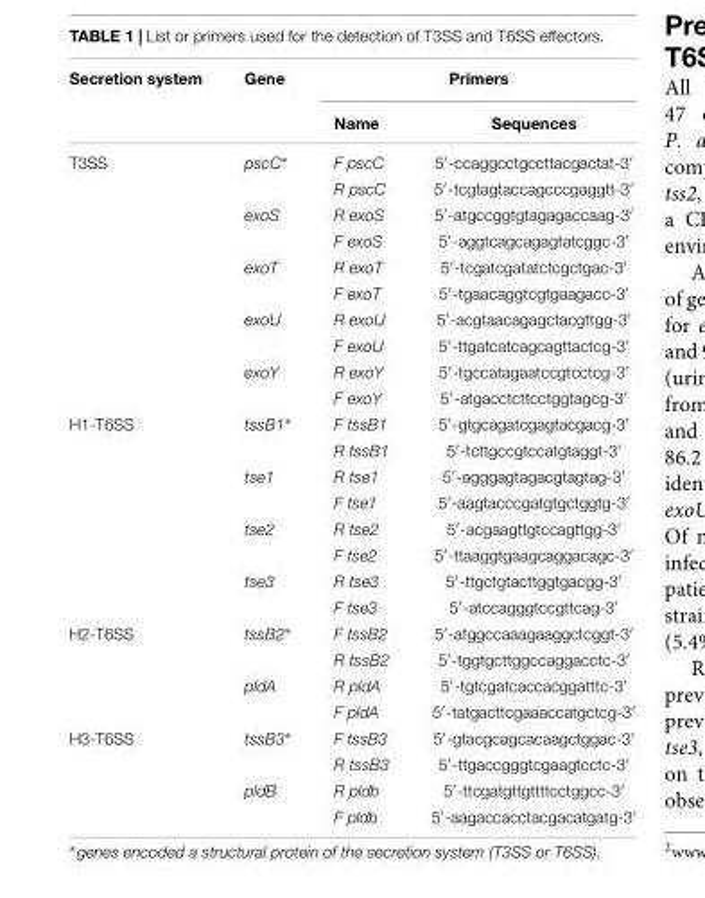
<table><thead><tr><td rowspan="2">Secretion system</td><td rowspan="2">Gene</td><td colspan="2">Primers</td></tr><tr><td>Name</td><td>Sequences</td></tr></thead><tbody><tr><td rowspan="10">T3SS</td><td>pscC∗</td><td>F pscC</td><td>5′-ccaggcctgccttacgactat-3′</td></tr><tr><td></td><td>R pscC</td><td>5′-tcgtagtaccagcccgaggtt-3′</td></tr><tr><td>exoS</td><td>R exoS</td><td>5′-atgccggtgtagagaccaag-3′</td></tr><tr><td></td><td>F exoS</td><td>5′-aggtcagcagagtatcggc-3′</td></tr><tr><td>exoT</td><td>R exoT</td><td>5′-tcgatcgatatctcgctgac-3′</td></tr><tr><td></td><td>F exoT</td><td>5′-tgaacaggtcgtgaagacc-3′</td></tr><tr><td>exoU</td><td>R exoU</td><td>5′-acgtaacagagctacgttgg-3′</td></tr><tr><td></td><td>F exoU</td><td>5′-ttgatcatcagcagttactcg-3′</td></tr><tr><td>exoY</td><td>R exoY</td><td>5′-tgccatagaatccgtcctcg-3′</td></tr><tr><td></td><td>F exoY</td><td>5′-atgacctcttcctggtagcg-3′</td></tr><tr><td rowspan="8">H1-T6SS</td><td>tssB1∗</td><td>F tssB1</td><td>5′-gtgcagatcgagtacgacg-3′</td></tr><tr><td></td><td>R tssB1</td><td>5′-tcttgccgtccatgtaggt-3′</td></tr><tr><td>tse1</td><td>R tse1</td><td>5′-agggagtagacgtagtag-3′</td></tr><tr><td></td><td>F tse1</td><td>5′-aagtacccgatgtgctggtg-3′</td></tr><tr><td>tse2</td><td>R tse2</td><td>5′-acgaagttgtccagttgg-3′</td></tr><tr><td></td><td>F tse2</td><td>5′-ttaaggtgaagcaggacagc-3′</td></tr><tr><td>tse3</td><td>R tse3</td><td>5′-ttgctgtacttggtgacgg-3′</td></tr><tr><td></td><td>F tse3</td><td>5′-atccagggtccgttcag-3′</td></tr><tr><td rowspan="4">H2-T6SS</td><td>tssB2∗</td><td>F tssB2</td><td>5′-atggccaaagaaggctcggt-3′</td></tr><tr><td></td><td>R tssB2</td><td>5′-tggtgcttggccaggacctc-3′</td></tr><tr><td>pldA</td><td>R pldA</td><td>5′-tgtcgatcaccacggatttc-3′</td></tr><tr><td></td><td>F pldA</td><td>5′-tatgacttcgaaaccatgctcg-3′</td></tr><tr><td rowspan="4">H3-T6SS</td><td>tssB3∗</td><td>F tssB3</td><td>5′-gtacgcagcacaagctggac-3′</td></tr><tr><td></td><td>R tssB3</td><td>5′-ttgaccgggtcgaagtcctc-3′</td></tr><tr><td>pldB</td><td>R pldb</td><td>5′-ttcgatgttgttttcctggcc-3′</td></tr><tr><td></td><td>F pldb</td><td>5′-aagaccacctacgacatgatg-3′</td></tr></tbody></table>